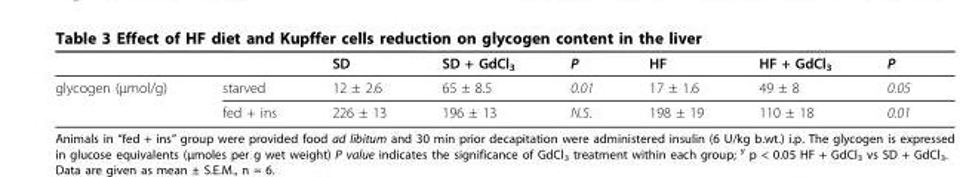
<table><thead><tr><td></td><td></td><td>SD</td><td>SD + GdCl<sub>3</sub></td><td>P</td><td>HF</td><td>HF + GdCl<sub>3</sub></td><td>P</td></tr></thead><tbody><tr><td rowspan="2">glycogen (μmol/g)</td><td>starved</td><td>12 ± 2.6</td><td>65 ± 8.5</td><td>0.01</td><td>17 ± 1.6</td><td>49 ± 8</td><td>0.05</td></tr><tr><td>fed + ins</td><td>226 ± 13</td><td>196 ± 13</td><td>N.S.</td><td>198 ± 19</td><td>110 ± 18</td><td>0.01</td></tr></tbody></table>